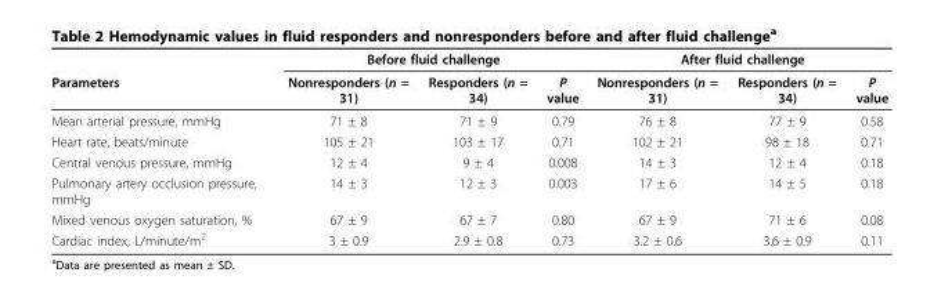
<table><thead><tr><td rowspan="2">Parameters</td><td colspan="3">Before fluid challenge</td><td colspan="3">After fluid challenge</td></tr><tr><td>Nonresponders (n = 31)</td><td>Responders (n = 34)</td><td>P value</td><td>Nonresponders (n = 31)</td><td>Responders (n = 34)</td><td>P value</td></tr></thead><tbody><tr><td>Mean arterial pressure, mmHg</td><td>71 ± 8</td><td>71 ± 9</td><td>0.79</td><td>76 ± 8</td><td>77 ± 9</td><td>0.58</td></tr><tr><td>Heart rate, beats/minute</td><td>105 ± 21</td><td>103 ± 17</td><td>0.71</td><td>102 ± 21</td><td>98 ± 18</td><td>0.71</td></tr><tr><td>Central venous pressure, mmHg</td><td>12 ± 4</td><td>9 ± 4</td><td>0.008</td><td>14 ± 3</td><td>12 ± 4</td><td>0.18</td></tr><tr><td>Pulmonary artery occlusion pressure, mmHg</td><td>14 ± 3</td><td>12 ± 3</td><td>0.003</td><td>17 ± 6</td><td>14 ± 5</td><td>0.18</td></tr><tr><td>Mixed venous oxygen saturation, %</td><td>67 ± 9</td><td>67 ± 7</td><td>0.80</td><td>67 ± 9</td><td>71 ± 6</td><td>0.08</td></tr><tr><td>Cardiac index, L/minute/m<sup>2</sup></td><td>3 ± 0.9</td><td>2.9 ± 0.8</td><td>0.73</td><td>3.2 ± 0.6</td><td>3.6 ± 0.9</td><td>0.11</td></tr></tbody></table>